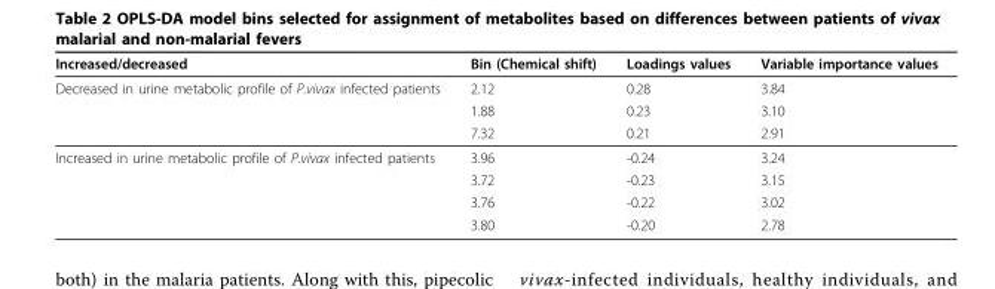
<table><thead><tr><td>Increased/decreased</td><td>Bin (Chemical shift)</td><td>Loadings values</td><td>Variable importance values</td></tr></thead><tbody><tr><td rowspan="3">Decreased in urine metabolic profile of P.vivax infected patients</td><td>2.12</td><td>0.28</td><td>3.84</td></tr><tr><td>1.88</td><td>0.23</td><td>3.10</td></tr><tr><td>7.32</td><td>0.21</td><td>2.91</td></tr><tr><td rowspan="4">Increased in urine metabolic profile of P.vivax infected patients</td><td>3.96</td><td>-0.24</td><td>3.24</td></tr><tr><td>3.72</td><td>-0.23</td><td>3.15</td></tr><tr><td>3.76</td><td>-0.22</td><td>3.02</td></tr><tr><td>3.80</td><td>-0.20</td><td>2.78</td></tr></tbody></table>